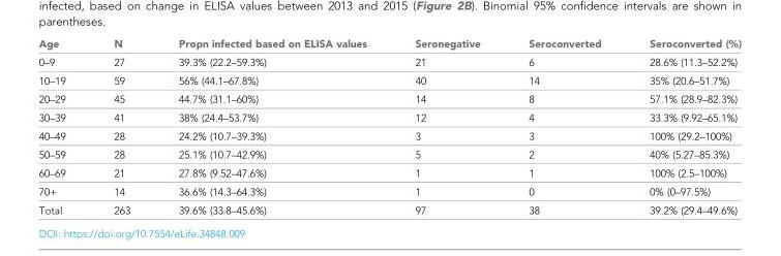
<table><thead><tr><td>Age</td><td>N</td><td>Propn infected based on ELISA values</td><td>Seronegative</td><td>Seroconverted</td><td>Seroconverted (%)</td></tr></thead><tbody><tr><td>0–9</td><td>27</td><td>39.3% (22.2–59.3%)</td><td>21</td><td>6</td><td>28.6% (11.3–52.2%)</td></tr><tr><td>10–19</td><td>59</td><td>56% (44.1–67.8%)</td><td>40</td><td>14</td><td>35% (20.6–51.7%)</td></tr><tr><td>20–29</td><td>45</td><td>44.7% (31.1–60%)</td><td>14</td><td>8</td><td>57.1% (28.9–82.3%)</td></tr><tr><td>30–39</td><td>41</td><td>38% (24.4–53.7%)</td><td>12</td><td>4</td><td>33.3% (9.92–65.1%)</td></tr><tr><td>40–49</td><td>28</td><td>24.2% (10.7–39.3%)</td><td>3</td><td>3</td><td>100% (29.2–100%)</td></tr><tr><td>50–59</td><td>28</td><td>25.1% (10.7–42.9%)</td><td>5</td><td>2</td><td>40% (5.27–85.3%)</td></tr><tr><td>60–69</td><td>21</td><td>27.8% (9.52–47.6%)</td><td>1</td><td>1</td><td>100% (2.5–100%)</td></tr><tr><td>70+</td><td>14</td><td>36.6% (14.3–64.3%)</td><td>1</td><td>0</td><td>0% (0–97.5%)</td></tr><tr><td>Total</td><td>263</td><td>39.6% (33.8–45.6%)</td><td>97</td><td>38</td><td>39.2% (29.4–49.6%)</td></tr></tbody></table>